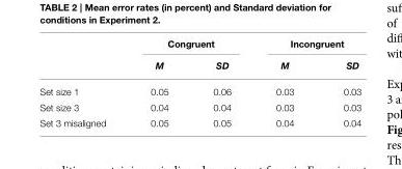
<table><thead><tr><td rowspan="2"></td><td colspan="2">Congruent</td><td colspan="2">Incongruent</td></tr><tr><td>M</td><td>SD</td><td>M</td><td>SD</td></tr></thead><tbody><tr><td>Set size 1</td><td>0.05</td><td>0.06</td><td>0.03</td><td>0.03</td></tr><tr><td>Set size 3</td><td>0.04</td><td>0.04</td><td>0.03</td><td>0.03</td></tr><tr><td>Set 3 misaligned</td><td>0.05</td><td>0.05</td><td>0.04</td><td>0.04</td></tr></tbody></table>